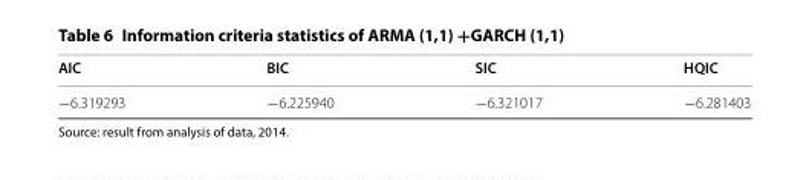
<table><thead><tr><td>AIC</td><td>BIC</td><td>SIC</td><td>HQIC</td></tr></thead><tbody><tr><td>−6.319293</td><td>−6.225940</td><td>−6.321017</td><td>−6.281403</td></tr></tbody></table>